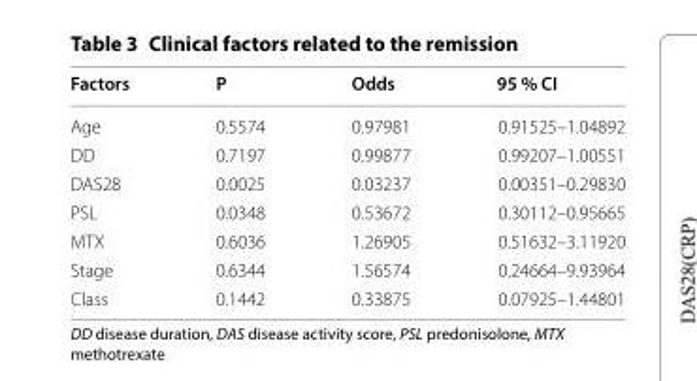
<table><thead><tr><td>Factors</td><td>P</td><td>Odds</td><td>95 % CI</td></tr></thead><tbody><tr><td>Age</td><td>0.5574</td><td>0.97981</td><td>0.91525–1.04892</td></tr><tr><td>DD</td><td>0.7197</td><td>0.99877</td><td>0.99207–1.00551</td></tr><tr><td>DAS28</td><td>0.0025</td><td>0.03237</td><td>0.00351–0.29830</td></tr><tr><td>PSL</td><td>0.0348</td><td>0.53672</td><td>0.30112–0.95665</td></tr><tr><td>MTX</td><td>0.6036</td><td>1.26905</td><td>0.51632–3.11920</td></tr><tr><td>Stage</td><td>0.6344</td><td>1.56574</td><td>0.24664–9.93964</td></tr><tr><td>Class</td><td>0.1442</td><td>0.33875</td><td>0.07925–1.44801</td></tr></tbody></table>